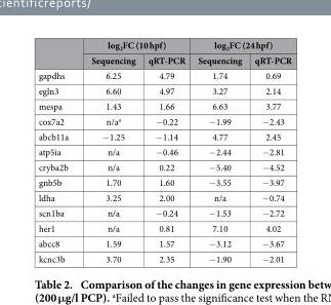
<table><thead><tr><td rowspan="2"></td><td colspan="2">log<sub>2</sub>FC (10 hpf)</td><td colspan="2">log<sub>2</sub>FC (24 hpf)</td></tr><tr><td>Sequencing</td><td>qRT-PCR</td><td>Sequencing</td><td>qRT-PCR</td></tr></thead><tbody><tr><td>gapdhs</td><td>6.25</td><td>4.79</td><td>1.74</td><td>0.69</td></tr><tr><td>egln3</td><td>6.60</td><td>4.97</td><td>3.27</td><td>2.14</td></tr><tr><td>mespa</td><td>1.43</td><td>1.66</td><td>6.63</td><td>3.77</td></tr><tr><td>cox7a2</td><td>n/a<sup>a</sup></td><td>− 0.22</td><td>− 1.99</td><td>− 2.43</td></tr><tr><td>abcb11a</td><td>− 1.25</td><td>− 1.14</td><td>4.77</td><td>2.45</td></tr><tr><td>atp5ia</td><td>n/a</td><td>− 0.46</td><td>− 2.44</td><td>− 2.81</td></tr><tr><td>cryba2b</td><td>n/a</td><td>0.22</td><td>− 5.40</td><td>− 4.52</td></tr><tr><td>gnb5b</td><td>1.70</td><td>1.60</td><td>− 3.55</td><td>− 3.97</td></tr><tr><td>ldha</td><td>3.25</td><td>2.00</td><td>n/a</td><td>− 0.74</td></tr><tr><td>scn1ba</td><td>n/a</td><td>− 0.24</td><td>− 1.53</td><td>− 2.72</td></tr><tr><td>her1</td><td>n/a</td><td>0.81</td><td>7.10</td><td>4.02</td></tr><tr><td>abcc8</td><td>1.59</td><td>1.57</td><td>− 3.12</td><td>− 3.67</td></tr><tr><td>kcnc3b</td><td>3.70</td><td>2.35</td><td>− 1.90</td><td>− 2.01</td></tr></tbody></table>